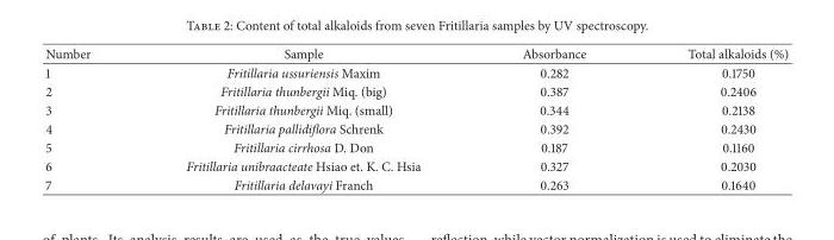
<table><thead><tr><td>Number</td><td>Sample</td><td>Absorbance</td><td>Total alkaloids (%)</td></tr></thead><tbody><tr><td>1</td><td>Fritillaria ussuriensis Maxim</td><td>0.282</td><td>0.1750</td></tr><tr><td>2</td><td>Fritillaria thunbergii Miq. (big)</td><td>0.387</td><td>0.2406</td></tr><tr><td>3</td><td>Fritillaria thunbergii Miq. (small)</td><td>0.344</td><td>0.2138</td></tr><tr><td>4</td><td>Fritillaria pallidiflora Schrenk</td><td>0.392</td><td>0.2430</td></tr><tr><td>5</td><td>Fritillaria cirrhosa D. Don</td><td>0.187</td><td>0.1160</td></tr><tr><td>6</td><td>Fritillaria unibraacteate Hsiao et. K. C. Hsia</td><td>0.327</td><td>0.2030</td></tr><tr><td>7</td><td>Fritillaria delavayi Franch</td><td>0.263</td><td>0.1640</td></tr></tbody></table>